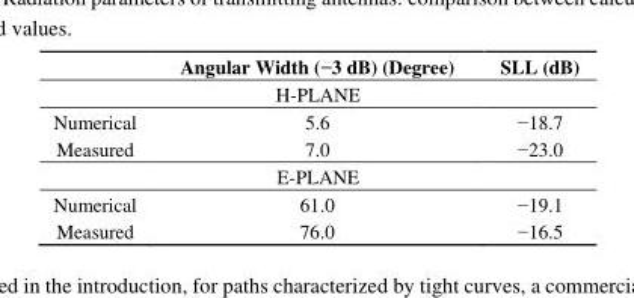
<table><thead><tr><td></td><td>Angular Width (−3 dB) (Degree)</td><td>SLL (dB)</td></tr></thead><tbody><tr><td colspan="3">H-PLANE</td></tr><tr><td>Numerical</td><td>5.6</td><td>−18.7</td></tr><tr><td>Measured</td><td>7.0</td><td>−23.0</td></tr><tr><td colspan="3">E-PLANE</td></tr><tr><td>Numerical</td><td>61.0</td><td>−19.1</td></tr><tr><td>Measured</td><td>76.0</td><td>−16.5</td></tr></tbody></table>